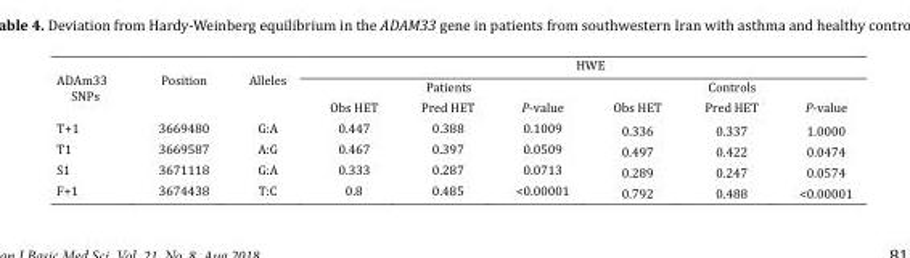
<table><thead><tr><td rowspan="3">ADAm33 SNPs</td><td rowspan="3">Position</td><td rowspan="3">Alleles</td><td colspan="6">HWE</td></tr><tr><td colspan="3">Patients</td><td colspan="3">Controls</td></tr><tr><td>Obs HET</td><td>Pred HET</td><td>P-value</td><td>Obs HET</td><td>Pred HET</td><td>P-value</td></tr></thead><tbody><tr><td>T+1</td><td>3669480</td><td>G:A</td><td>0.447</td><td>0.388</td><td>0.1009</td><td>0.336</td><td>0.337</td><td>1.0000</td></tr><tr><td>T1</td><td>3669587</td><td>A:G</td><td>0.467</td><td>0.397</td><td>0.0509</td><td>0.497</td><td>0.422</td><td>0.0474</td></tr><tr><td>S1</td><td>3671118</td><td>G:A</td><td>0.333</td><td>0.287</td><td>0.0713</td><td>0.289</td><td>0.247</td><td>0.0574</td></tr><tr><td>F+1</td><td>3674438</td><td>T:C</td><td>0.8</td><td>0.485</td><td>&lt;0.00001</td><td>0.792</td><td>0.488</td><td>&lt;0.00001</td></tr></tbody></table>